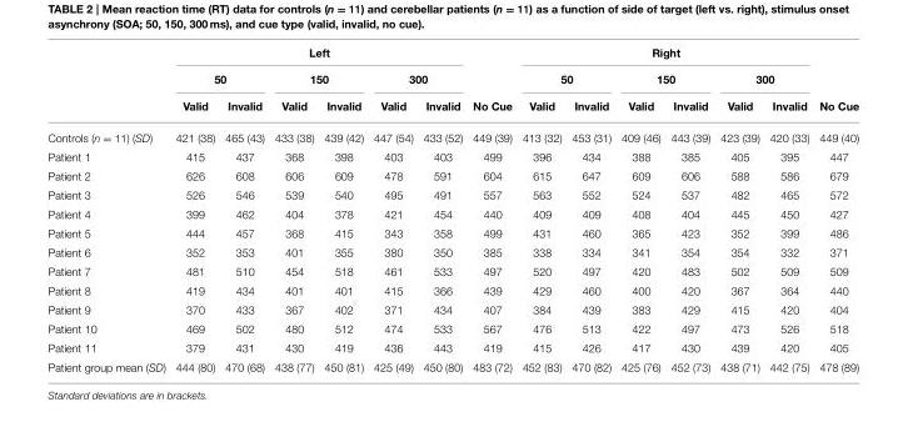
<table><thead><tr><td rowspan="3"></td><td colspan="6">Left</td><td rowspan="3">No Cue</td><td colspan="6">Right</td><td rowspan="3">No Cue</td></tr><tr><td colspan="2">50</td><td colspan="2">150</td><td colspan="2">300</td><td colspan="2">50</td><td colspan="2">150</td><td colspan="2">300</td></tr><tr><td>Valid</td><td>Invalid</td><td>Valid</td><td>Invalid</td><td>Valid</td><td>Invalid</td><td>Valid</td><td>Invalid</td><td>Valid</td><td>Invalid</td><td>Valid</td><td>Invalid</td></tr></thead><tbody><tr><td>Controls (n = 11) (SD)</td><td>421 (38)</td><td>465 (43)</td><td>433 (38)</td><td>439 (42)</td><td>447 (54)</td><td>433 (52)</td><td>449 (39)</td><td>413 (32)</td><td>453 (31)</td><td>409 (46)</td><td>443 (39)</td><td>423 (39)</td><td>420 (33)</td><td>449 (40)</td></tr><tr><td>Patient 1</td><td>415</td><td>437</td><td>368</td><td>398</td><td>403</td><td>403</td><td>499</td><td>396</td><td>434</td><td>388</td><td>385</td><td>405</td><td>395</td><td>447</td></tr><tr><td>Patient 2</td><td>626</td><td>608</td><td>606</td><td>609</td><td>478</td><td>591</td><td>604</td><td>615</td><td>647</td><td>609</td><td>606</td><td>588</td><td>586</td><td>679</td></tr><tr><td>Patient 3</td><td>526</td><td>546</td><td>539</td><td>540</td><td>495</td><td>491</td><td>557</td><td>563</td><td>552</td><td>524</td><td>537</td><td>482</td><td>465</td><td>572</td></tr><tr><td>Patient 4</td><td>399</td><td>462</td><td>404</td><td>378</td><td>421</td><td>454</td><td>440</td><td>409</td><td>409</td><td>408</td><td>404</td><td>445</td><td>450</td><td>427</td></tr><tr><td>Patient 5</td><td>444</td><td>457</td><td>368</td><td>415</td><td>343</td><td>358</td><td>499</td><td>431</td><td>460</td><td>365</td><td>423</td><td>352</td><td>399</td><td>486</td></tr><tr><td>Patient 6</td><td>352</td><td>353</td><td>401</td><td>355</td><td>380</td><td>350</td><td>385</td><td>338</td><td>334</td><td>341</td><td>354</td><td>354</td><td>332</td><td>371</td></tr><tr><td>Patient 7</td><td>481</td><td>510</td><td>454</td><td>518</td><td>461</td><td>533</td><td>497</td><td>520</td><td>497</td><td>420</td><td>483</td><td>502</td><td>509</td><td>509</td></tr><tr><td>Patient 8</td><td>419</td><td>434</td><td>401</td><td>401</td><td>415</td><td>366</td><td>439</td><td>429</td><td>460</td><td>400</td><td>420</td><td>367</td><td>364</td><td>440</td></tr><tr><td>Patient 9</td><td>370</td><td>433</td><td>367</td><td>402</td><td>371</td><td>434</td><td>407</td><td>384</td><td>439</td><td>383</td><td>429</td><td>415</td><td>420</td><td>404</td></tr><tr><td>Patient 10</td><td>469</td><td>502</td><td>480</td><td>512</td><td>474</td><td>533</td><td>567</td><td>476</td><td>513</td><td>422</td><td>497</td><td>473</td><td>526</td><td>518</td></tr><tr><td>Patient 11</td><td>379</td><td>431</td><td>430</td><td>419</td><td>436</td><td>443</td><td>419</td><td>415</td><td>426</td><td>417</td><td>430</td><td>439</td><td>420</td><td>405</td></tr><tr><td>Patient group mean (SD)</td><td>444 (80)</td><td>470 (68)</td><td>438 (77)</td><td>450 (81)</td><td>425 (49)</td><td>450 (80)</td><td>483 (72)</td><td>452 (83)</td><td>470 (82)</td><td>425 (76)</td><td>452 (73)</td><td>438 (71)</td><td>442 (75)</td><td>478 (89)</td></tr></tbody></table>